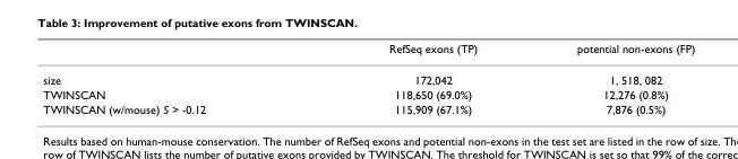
<table><thead><tr><td></td><td>RefSeq exons (TP)</td><td>potential non-exons (FP)</td></tr></thead><tbody><tr><td>size</td><td>172,042</td><td>1, 518, 082</td></tr><tr><td>TWINSCAN</td><td>118,650 (69.0%)</td><td>12,276 (0.8%)</td></tr><tr><td>TWINSCAN (w/mouse) S &gt; -0.12</td><td>115,909 (67.1%)</td><td>7,876 (0.5%)</td></tr></tbody></table>